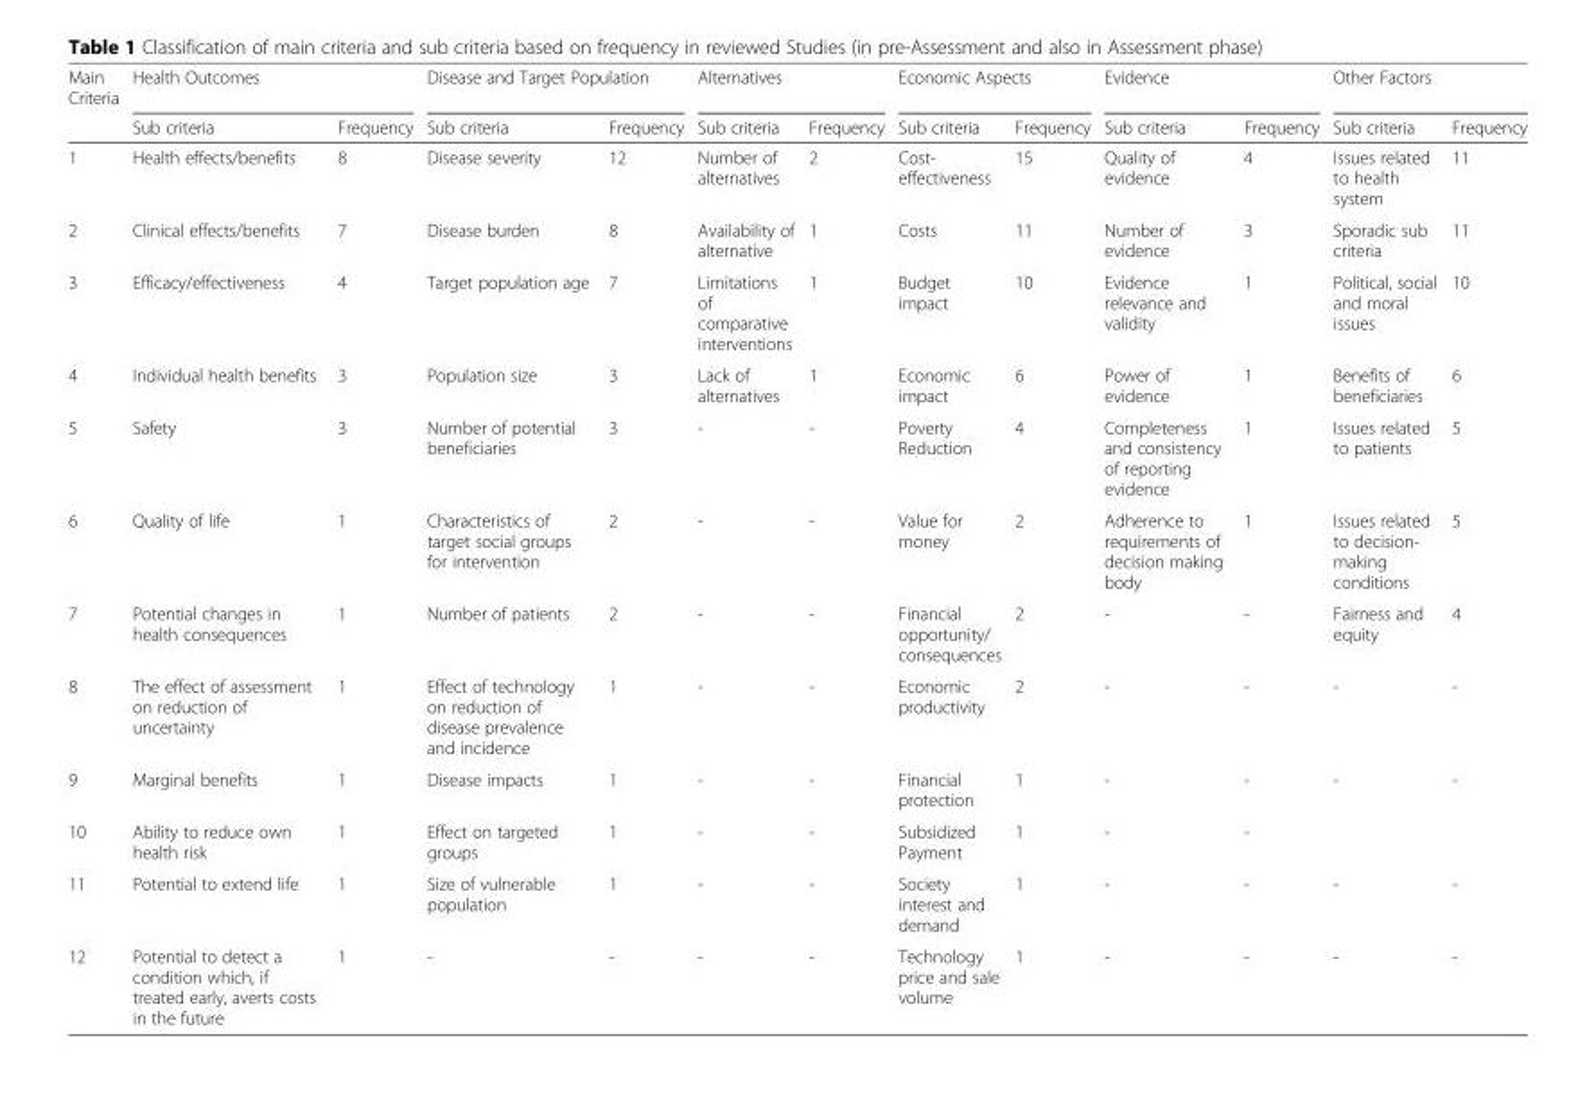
<table><thead><tr><td rowspan="2">Main Criteria</td><td colspan="2">Health Outcomes</td><td colspan="2">Disease and Target Population</td><td colspan="2">Alternatives</td><td colspan="2">Economic Aspects</td><td colspan="2">Evidence</td><td colspan="2">Other Factors</td></tr><tr><td>Sub criteria</td><td>Frequency</td><td>Sub criteria</td><td>Frequency</td><td>Sub criteria</td><td>Frequency</td><td>Sub criteria</td><td>Frequency</td><td>Sub criteria</td><td>Frequency</td><td>Sub criteria</td><td>Frequency</td></tr></thead><tbody><tr><td>1</td><td>Health effects/benefits</td><td>8</td><td>Disease severity</td><td>12</td><td>Number of alternatives</td><td>2</td><td>Cost- effectiveness</td><td>15</td><td>Quality of evidence</td><td>4</td><td>Issues related to health system</td><td>11</td></tr><tr><td>2</td><td>Clinical effects/benefits</td><td>7</td><td>Disease burden</td><td>8</td><td>Availability of alternative</td><td>1</td><td>Costs</td><td>11</td><td>Number of evidence</td><td>3</td><td>Sporadic sub criteria</td><td>11</td></tr><tr><td>3</td><td>Efficacy/effectiveness</td><td>4</td><td>Target population age</td><td>7</td><td>Limitations of comparative interventions</td><td>1</td><td>Budget impact</td><td>10</td><td>Evidence relevance and validity</td><td>1</td><td>Political, social and moral issues</td><td>10</td></tr><tr><td>4</td><td>Individual health benefits</td><td>3</td><td>Population size</td><td>3</td><td>Lack of alternatives</td><td>1</td><td>Economic impact</td><td>6</td><td>Power of evidence</td><td>1</td><td>Benefits of beneficiaries</td><td>6</td></tr><tr><td>5</td><td>Safety</td><td>3</td><td>Number of potential beneficiaries</td><td>3</td><td>-</td><td>-</td><td>Poverty Reduction</td><td>4</td><td>Completeness and consistency of reporting evidence</td><td>1</td><td>Issues related to patients</td><td>5</td></tr><tr><td>6</td><td>Quality of life</td><td>1</td><td>Characteristics of target social groups for intervention</td><td>2</td><td>-</td><td>-</td><td>Value for money</td><td>2</td><td>Adherence to requirements of decision making body</td><td>1</td><td>Issues related to decision- making conditions</td><td>5</td></tr><tr><td>7</td><td>Potential changes in health consequences</td><td>1</td><td>Number of patients</td><td>2</td><td>-</td><td>-</td><td>Financial opportunity/ consequences</td><td>2</td><td>-</td><td>-</td><td>Fairness and equity</td><td>4</td></tr><tr><td>8</td><td>The effect of assessment on reduction of uncertainty</td><td>1</td><td>Effect of technology on reduction of disease prevalence and incidence</td><td>1</td><td>-</td><td>-</td><td>Economic productivity</td><td>2</td><td>-</td><td>-</td><td>-</td><td>-</td></tr><tr><td>9</td><td>Marginal benefits</td><td>1</td><td>Disease impacts</td><td>1</td><td>-</td><td>-</td><td>Financial protection</td><td>1</td><td>-</td><td>-</td><td>-</td><td>-</td></tr><tr><td>10</td><td>Ability to reduce own health risk</td><td>1</td><td>Effect on targeted groups</td><td>1</td><td>-</td><td>-</td><td>Subsidized Payment</td><td>1</td><td>-</td><td>-</td><td></td><td></td></tr><tr><td>11</td><td>Potential to extend life</td><td>1</td><td>Size of vulnerable population</td><td>1</td><td>-</td><td>-</td><td>Society interest and demand</td><td>1</td><td>-</td><td>-</td><td>-</td><td>-</td></tr><tr><td>12</td><td>Potential to detect a condition which, if treated early, averts costs in the future</td><td>1</td><td>-</td><td>-</td><td>-</td><td>-</td><td>Technology price and sale volume</td><td>1</td><td>-</td><td>-</td><td>-</td><td>-</td></tr></tbody></table>